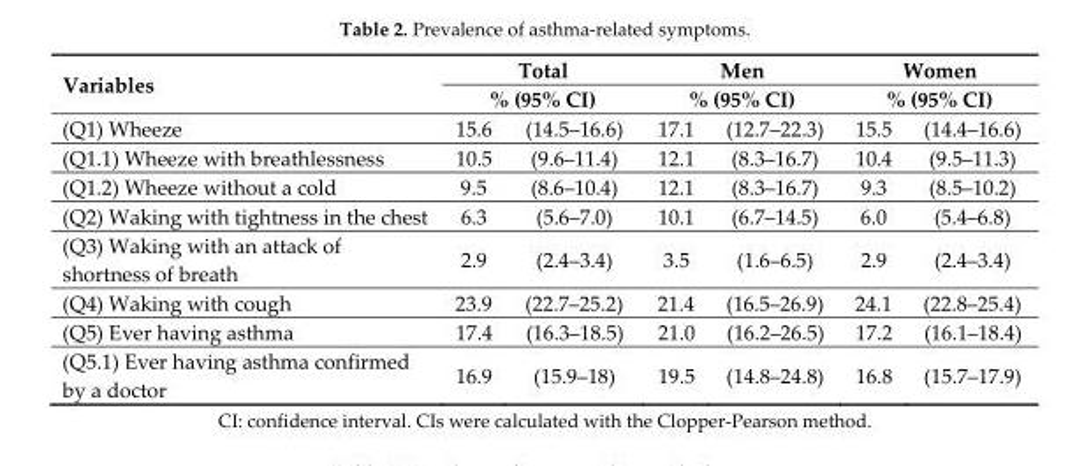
<table><thead><tr><td rowspan="3">Variables (Q1) Wheeze</td><td rowspan="2" colspan="2">Total % (95% CI)</td><td rowspan="2" colspan="2">Men % (95% CI)</td><td rowspan="2" colspan="2">Women % (95% CI)</td></tr><tr></tr><tr><td>15.6</td><td>(14.5–16.6)</td><td>17.1</td><td>(12.7–22.3)</td><td>15.5</td><td>(14.4–16.6)</td></tr></thead><tbody><tr><td>(Q1.1) Wheeze with breathlessness</td><td>10.5</td><td>(9.6–11.4)</td><td>12.1</td><td>(8.3–16.7)</td><td>10.4</td><td>(9.5–11.3)</td></tr><tr><td>(Q1.2) Wheeze without a cold</td><td>9.5</td><td>(8.6–10.4)</td><td>12.1</td><td>(8.3–16.7)</td><td>9.3</td><td>(8.5–10.2)</td></tr><tr><td>(Q2) Waking with tightness in the chest</td><td>6.3</td><td>(5.6–7.0)</td><td>10.1</td><td>(6.7–14.5)</td><td>6.0</td><td>(5.4–6.8)</td></tr><tr><td>(Q3) Waking with an attack of shortness of breath</td><td>2.9</td><td>(2.4–3.4)</td><td>3.5</td><td>(1.6–6.5)</td><td>2.9</td><td>(2.4–3.4)</td></tr><tr><td>(Q4) Waking with cough</td><td>23.9</td><td>(22.7–25.2)</td><td>21.4</td><td>(16.5–26.9)</td><td>24.1</td><td>(22.8–25.4)</td></tr><tr><td>(Q5) Ever having asthma</td><td>17.4</td><td>(16.3–18.5)</td><td>21.0</td><td>(16.2–26.5)</td><td>17.2</td><td>(16.1–18.4)</td></tr><tr><td>(Q5.1) Ever having asthma confirmed by a doctor</td><td>16.9</td><td>(15.9–18)</td><td>19.5</td><td>(14.8–24.8)</td><td>16.8</td><td>(15.7–17.9)</td></tr></tbody></table>